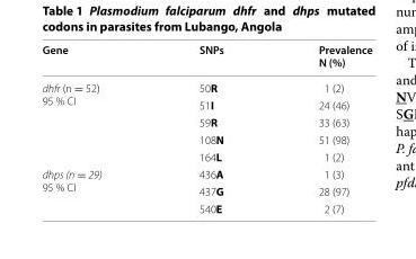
<table><thead><tr><td>Gene</td><td>SNPs</td><td>Prevalence N (%)</td></tr></thead><tbody><tr><td rowspan="5">dhfr (n = 52) 95 % CI</td><td>50R</td><td>1 (2)</td></tr><tr><td>51I</td><td>24 (46)</td></tr><tr><td>59R</td><td>33 (63)</td></tr><tr><td>108N</td><td>51 (98)</td></tr><tr><td>164L</td><td>1 (2)</td></tr><tr><td rowspan="3">dhps (n = 29) 95 % CI</td><td>436A</td><td>1 (3)</td></tr><tr><td>437G</td><td>28 (97)</td></tr><tr><td>540E</td><td>2 (7)</td></tr></tbody></table>